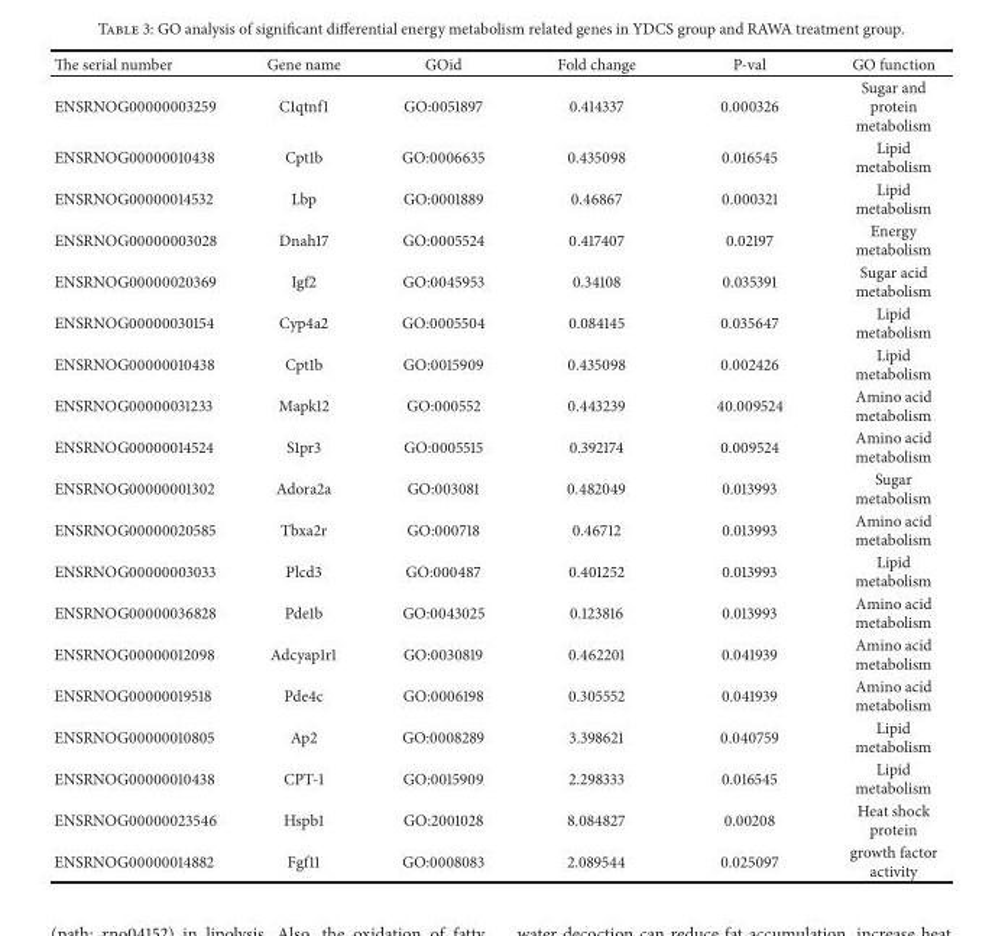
<table><thead><tr><td>The serial number</td><td>Gene name</td><td>GOid</td><td>Fold change</td><td>P-val</td><td>GO function</td></tr></thead><tbody><tr><td>ENSRNOG00000003259</td><td>C1qtnf1</td><td>GO:0051897</td><td>0.414337</td><td>0.000326</td><td>Sugar and protein metabolism</td></tr><tr><td>ENSRNOG00000010438</td><td>Cpt1b</td><td>GO:0006635</td><td>0.435098</td><td>0.016545</td><td>Lipid metabolism</td></tr><tr><td>ENSRNOG00000014532</td><td>Lbp</td><td>GO:0001889</td><td>0.46867</td><td>0.000321</td><td>Lipid metabolism</td></tr><tr><td>ENSRNOG00000003028</td><td>Dnah17</td><td>GO:0005524</td><td>0.417407</td><td>0.02197</td><td>Energy metabolism</td></tr><tr><td>ENSRNOG00000020369</td><td>Igf2</td><td>GO:0045953</td><td>0.34108</td><td>0.035391</td><td>Sugar acid metabolism</td></tr><tr><td>ENSRNOG00000030154</td><td>Cyp4a2</td><td>GO:0005504</td><td>0.084145</td><td>0.035647</td><td>Lipid metabolism</td></tr><tr><td>ENSRNOG00000010438</td><td>Cpt1b</td><td>GO:0015909</td><td>0.435098</td><td>0.002426</td><td>Lipid metabolism</td></tr><tr><td>ENSRNOG00000031233</td><td>Mapk12</td><td>GO:000552</td><td>0.443239</td><td>40.009524</td><td>Amino acid metabolism</td></tr><tr><td>ENSRNOG00000014524</td><td>S1pr3</td><td>GO:0005515</td><td>0.392174</td><td>0.009524</td><td>Amino acid metabolism</td></tr><tr><td>ENSRNOG00000001302</td><td>Adora2a</td><td>GO:003081</td><td>0.482049</td><td>0.013993</td><td>Sugar metabolism</td></tr><tr><td>ENSRNOG00000020585</td><td>Tbxa2r</td><td>GO:000718</td><td>0.46712</td><td>0.013993</td><td>Amino acid metabolism</td></tr><tr><td>ENSRNOG00000003033</td><td>Plcd3</td><td>GO:000487</td><td>0.401252</td><td>0.013993</td><td>Lipid metabolism</td></tr><tr><td>ENSRNOG00000036828</td><td>Pde1b</td><td>GO:0043025</td><td>0.123816</td><td>0.013993</td><td>Amino acid metabolism</td></tr><tr><td>ENSRNOG00000012098</td><td>Adcyap1r1</td><td>GO:0030819</td><td>0.462201</td><td>0.041939</td><td>Amino acid metabolism</td></tr><tr><td>ENSRNOG00000019518</td><td>Pde4c</td><td>GO:0006198</td><td>0.305552</td><td>0.041939</td><td>Amino acid metabolism</td></tr><tr><td>ENSRNOG00000010805</td><td>Ap2</td><td>GO:0008289</td><td>3.398621</td><td>0.040759</td><td>Lipid metabolism</td></tr><tr><td>ENSRNOG00000010438</td><td>CPT-1</td><td>GO:0015909</td><td>2.298333</td><td>0.016545</td><td>Lipid metabolism</td></tr><tr><td>ENSRNOG00000023546</td><td>Hspb1</td><td>GO:2001028</td><td>8.084827</td><td>0.00208</td><td>Heat shock protein</td></tr><tr><td>ENSRNOG00000014882</td><td>Fgf11</td><td>GO:0008083</td><td>2.089544</td><td>0.025097</td><td>growth factor activity</td></tr></tbody></table>